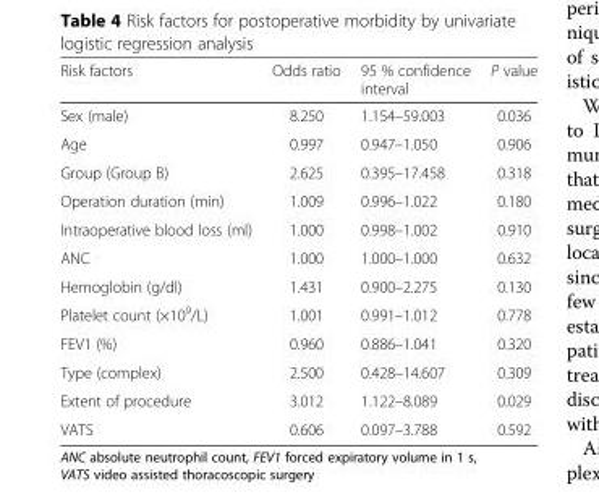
<table><thead><tr><td>Risk factors</td><td>Odds ratio</td><td>95 % confidence interval</td><td>P value</td></tr></thead><tbody><tr><td>Sex (male)</td><td>8.250</td><td>1.154–59.003</td><td>0.036</td></tr><tr><td>Age</td><td>0.997</td><td>0.947–1.050</td><td>0.906</td></tr><tr><td>Group (Group B)</td><td>2.625</td><td>0.395–17.458</td><td>0.318</td></tr><tr><td>Operation duration (min)</td><td>1.009</td><td>0.996–1.022</td><td>0.180</td></tr><tr><td>Intraoperative blood loss (ml)</td><td>1.000</td><td>0.998–1.002</td><td>0.910</td></tr><tr><td>ANC</td><td>1.000</td><td>1.000–1.000</td><td>0.632</td></tr><tr><td>Hemoglobin (g/dl)</td><td>1.431</td><td>0.900–2.275</td><td>0.130</td></tr><tr><td>Platelet count (×10<sup>9</sup>/L)</td><td>1.001</td><td>0.991–1.012</td><td>0.778</td></tr><tr><td>FEV1 (%)</td><td>0.960</td><td>0.886–1.041</td><td>0.320</td></tr><tr><td>Type (complex)</td><td>2.500</td><td>0.428–14.607</td><td>0.309</td></tr><tr><td>Extent of procedure</td><td>3.012</td><td>1.122–8.089</td><td>0.029</td></tr><tr><td>VATS</td><td>0.606</td><td>0.097–3.788</td><td>0.592</td></tr></tbody></table>